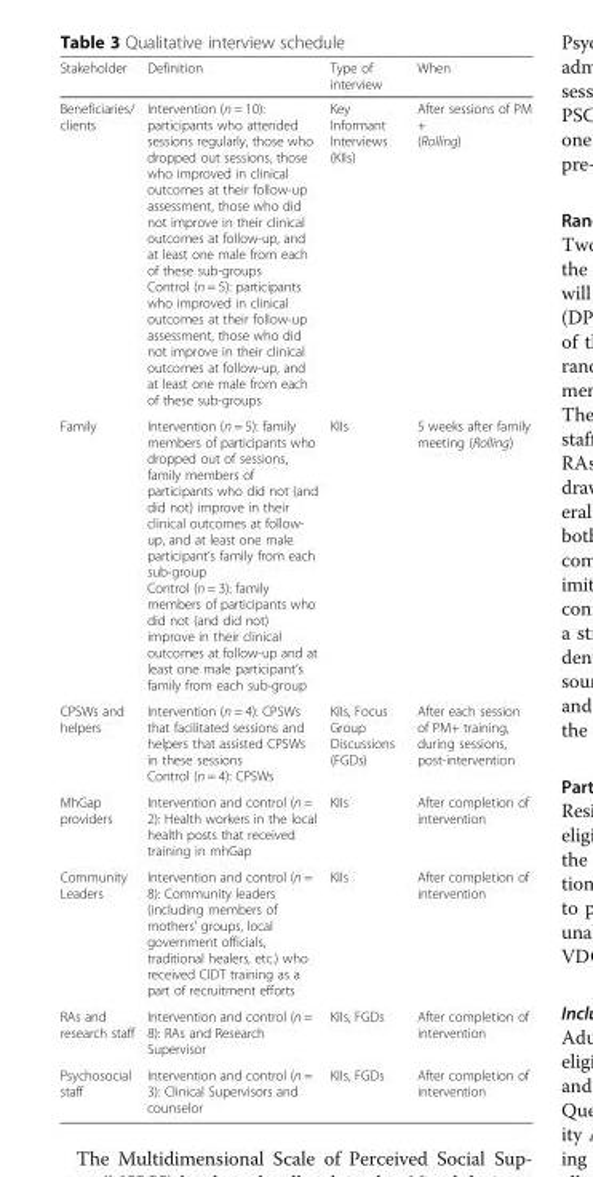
<table><thead><tr><td>Stakeholder</td><td>Definition</td><td>Type of interview</td><td>When</td></tr></thead><tbody><tr><td>Beneficiaries/ clients</td><td>Intervention (n = 10): participants who attended sessions regularly, those who dropped out sessions, those who improved in clinical outcomes at their follow-up assessment, those who did not improve in their clinical outcomes at follow-up, and at least one male from each of these sub-groups Control (n = 5): participants who improved in clinical outcomes at their follow-up assessment, those who did not improve in their clinical outcomes at follow-up, and at least one male from each of these sub-groups</td><td>Key Informant Interviews (KIIs)</td><td>After sessions of PM + (Rolling)</td></tr><tr><td>Family</td><td>Intervention (n = 5): family members of participants who dropped out of sessions, family members of participants who did not (and did not) improve in their clinical outcomes at follow- up, and at least one male participant’s family from each sub-group Control (n = 3): family members of participants who did not (and did not) improve in their clinical outcomes at follow-up and at least one male participant’s family from each sub-group</td><td>KIIs</td><td>5 weeks after family meeting (Rolling)</td></tr><tr><td>CPSWs and helpers</td><td>Intervention (n = 4): CPSWs that facilitated sessions and helpers that assisted CPSWs in these sessions Control (n = 4): CPSWs</td><td>KIIs, Focus Group Discussions (FGDs)</td><td>After each session of PM+ training, during sessions, post-intervention</td></tr><tr><td>MhGap providers</td><td>Intervention and control (n = 2): Health workers in the local health posts that received training in mhGap</td><td>KIIs</td><td>After completion of intervention</td></tr><tr><td>Community Leaders</td><td>Intervention and control (n = 8): Community leaders (including members of mothers’ groups, local government officials, traditional healers, etc.) who received CIDT training as a part of recruitment efforts</td><td>KIIs</td><td>After completion of intervention</td></tr><tr><td>RAs and research staff</td><td>Intervention and control (n = 8): RAs and Research Supervisor</td><td>KIIs, FGDs</td><td>After completion of intervention</td></tr><tr><td>Psychosocial staff</td><td>Intervention and control (n = 3): Clinical Supervisors and counselor</td><td>KIIs, FGDs</td><td>After completion of intervention</td></tr></tbody></table>